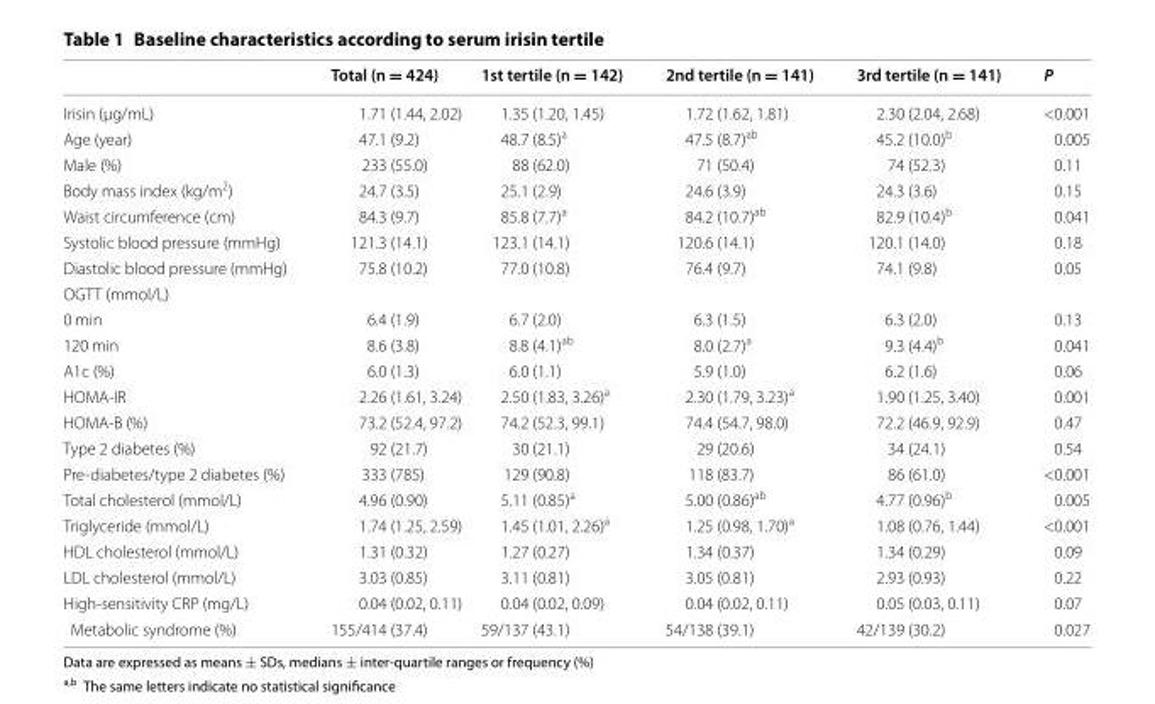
<table><thead><tr><td></td><td>Total (n = 424)</td><td>1st tertile (n = 142)</td><td>2nd tertile (n = 141)</td><td>3rd tertile (n = 141)</td><td>P</td></tr></thead><tbody><tr><td>Irisin (μg/mL)</td><td>1.71 (1.44, 2.02)</td><td>1.35 (1.20, 1.45)</td><td>1.72 (1.62, 1.81)</td><td>2.30 (2.04, 2.68)</td><td>&lt;0.001</td></tr><tr><td>Age (year)</td><td>47.1 (9.2)</td><td>48.7 (8.5)<sup>a</sup></td><td>47.5 (8.7)<sup>ab</sup></td><td>45.2 (10.0)<sup>b</sup></td><td>0.005</td></tr><tr><td>Male (%)</td><td>233 (55.0)</td><td>88 (62.0)</td><td>71 (50.4)</td><td>74 (52.3)</td><td>0.11</td></tr><tr><td>Body mass index (kg/m<sup>2</sup>)</td><td>24.7 (3.5)</td><td>25.1 (2.9)</td><td>24.6 (3.9)</td><td>24.3 (3.6)</td><td>0.15</td></tr><tr><td>Waist circumference (cm)</td><td>84.3 (9.7)</td><td>85.8 (7.7)<sup>a</sup></td><td>84.2 (10.7)<sup>ab</sup></td><td>82.9 (10.4)<sup>b</sup></td><td>0.041</td></tr><tr><td>Systolic blood pressure (mmHg)</td><td>121.3 (14.1)</td><td>123.1 (14.1)</td><td>120.6 (14.1)</td><td>120.1 (14.0)</td><td>0.18</td></tr><tr><td>Diastolic blood pressure (mmHg)</td><td>75.8 (10.2)</td><td>77.0 (10.8)</td><td>76.4 (9.7)</td><td>74.1 (9.8)</td><td>0.05</td></tr><tr><td colspan="6">OGTT (mmol/L)</td></tr><tr><td>0 min</td><td>6.4 (1.9)</td><td>6.7 (2.0)</td><td>6.3 (1.5)</td><td>6.3 (2.0)</td><td>0.13</td></tr><tr><td>120 min</td><td>8.6 (3.8)</td><td>8.8 (4.1)<sup>ab</sup></td><td>8.0 (2.7)<sup>a</sup></td><td>9.3 (4.4)<sup>b</sup></td><td>0.041</td></tr><tr><td>A1c (%)</td><td>6.0 (1.3)</td><td>6.0 (1.1)</td><td>5.9 (1.0)</td><td>6.2 (1.6)</td><td>0.06</td></tr><tr><td>HOMA‑IR</td><td>2.26 (1.61, 3.24)</td><td>2.50 (1.83, 3.26)<sup>a</sup></td><td>2.30 (1.79, 3.23)<sup>a</sup></td><td>1.90 (1.25, 3.40)</td><td>0.001</td></tr><tr><td>HOMA‑B (%)</td><td>73.2 (52.4, 97.2)</td><td>74.2 (52.3, 99.1)</td><td>74.4 (54.7, 98.0)</td><td>72.2 (46.9, 92.9)</td><td>0.47</td></tr><tr><td>Type 2 diabetes (%)</td><td>92 (21.7)</td><td>30 (21.1)</td><td>29 (20.6)</td><td>34 (24.1)</td><td>0.54</td></tr><tr><td>Pre‑diabetes/type 2 diabetes (%)</td><td>333 (785)</td><td>129 (90.8)</td><td>118 (83.7)</td><td>86 (61.0)</td><td>&lt;0.001</td></tr><tr><td>Total cholesterol (mmol/L)</td><td>4.96 (0.90)</td><td>5.11 (0.85)<sup>a</sup></td><td>5.00 (0.86)<sup>ab</sup></td><td>4.77 (0.96)<sup>b</sup></td><td>0.005</td></tr><tr><td>Triglyceride (mmol/L)</td><td>1.74 (1.25, 2.59)</td><td>1.45 (1.01, 2.26)<sup>a</sup></td><td>1.25 (0.98, 1.70)<sup>a</sup></td><td>1.08 (0.76, 1.44)</td><td>&lt;0.001</td></tr><tr><td>HDL cholesterol (mmol/L)</td><td>1.31 (0.32)</td><td>1.27 (0.27)</td><td>1.34 (0.37)</td><td>1.34 (0.29)</td><td>0.09</td></tr><tr><td>LDL cholesterol (mmol/L)</td><td>3.03 (0.85)</td><td>3.11 (0.81)</td><td>3.05 (0.81)</td><td>2.93 (0.93)</td><td>0.22</td></tr><tr><td>High‑sensitivity CRP (mg/L)</td><td>0.04 (0.02, 0.11)</td><td>0.04 (0.02, 0.09)</td><td>0.04 (0.02, 0.11)</td><td>0.05 (0.03, 0.11)</td><td>0.07</td></tr><tr><td>Metabolic syndrome (%)</td><td>155/414 (37.4)</td><td>59/137 (43.1)</td><td>54/138 (39.1)</td><td>42/139 (30.2)</td><td>0.027</td></tr></tbody></table>